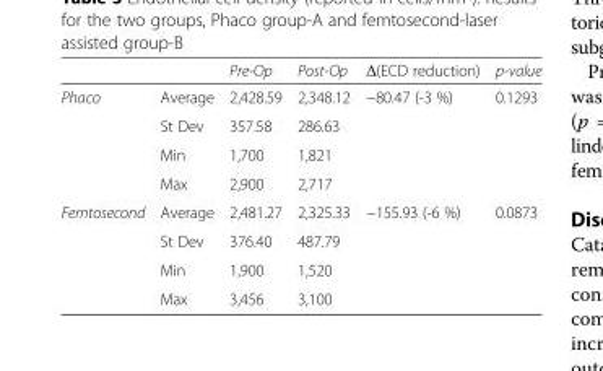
<table><thead><tr><td></td><td></td><td>Pre-Op</td><td>Post-Op</td><td>Δ(ECD reduction)</td><td>p-value</td></tr></thead><tbody><tr><td rowspan="4">Phaco</td><td>Average</td><td>2,428.59</td><td>2,348.12</td><td>−80.47 (-3 %)</td><td>0.1293</td></tr><tr><td>St Dev</td><td>357.58</td><td>286.63</td><td></td><td></td></tr><tr><td>Min</td><td>1,700</td><td>1,821</td><td></td><td></td></tr><tr><td>Max</td><td>2,900</td><td>2,717</td><td></td><td></td></tr><tr><td rowspan="4">Femtosecond</td><td>Average</td><td>2,481.27</td><td>2,325.33</td><td>−155.93 (-6 %)</td><td>0.0873</td></tr><tr><td>St Dev</td><td>376.40</td><td>487.79</td><td></td><td></td></tr><tr><td>Min</td><td>1,900</td><td>1,520</td><td></td><td></td></tr><tr><td>Max</td><td>3,456</td><td>3,100</td><td></td><td></td></tr></tbody></table>